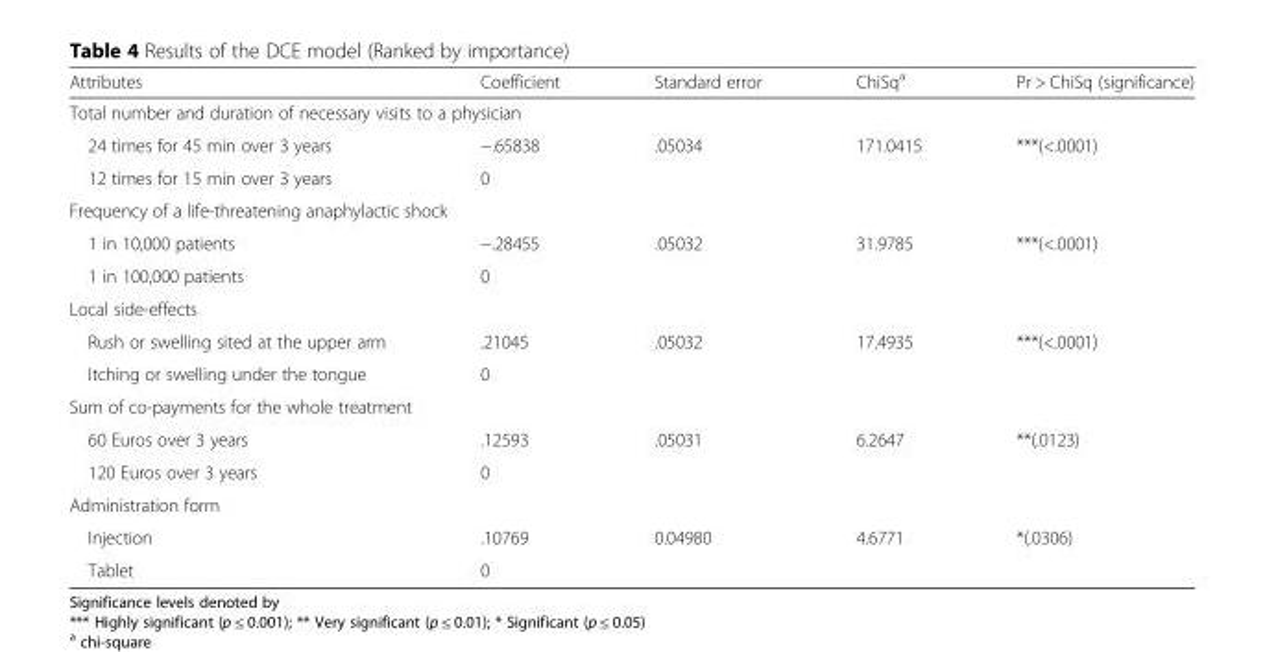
<table><thead><tr><td>Attributes</td><td>Coefficient</td><td>Standard error</td><td>ChiSq<sup>a</sup></td><td>Pr &gt; ChiSq (significance)</td></tr></thead><tbody><tr><td colspan="5">Total number and duration of necessary visits to a physician</td></tr><tr><td>24 times for 45 min over 3 years</td><td>−.65838</td><td>.05034</td><td>171.0415</td><td>***(&lt;.0001)</td></tr><tr><td>12 times for 15 min over 3 years</td><td>0</td><td></td><td></td><td></td></tr><tr><td colspan="5">Frequency of a life-threatening anaphylactic shock</td></tr><tr><td>1 in 10,000 patients</td><td>−.28455</td><td>.05032</td><td>31.9785</td><td>***(&lt;.0001)</td></tr><tr><td>1 in 100,000 patients</td><td>0</td><td></td><td></td><td></td></tr><tr><td colspan="5">Local side-effects</td></tr><tr><td>Rush or swelling sited at the upper arm</td><td>.21045</td><td>.05032</td><td>17.4935</td><td>***(&lt;.0001)</td></tr><tr><td>Itching or swelling under the tongue</td><td>0</td><td></td><td></td><td></td></tr><tr><td colspan="5">Sum of co-payments for the whole treatment</td></tr><tr><td>60 Euros over 3 years</td><td>.12593</td><td>.05031</td><td>6.2647</td><td>**(.0123)</td></tr><tr><td>120 Euros over 3 years</td><td>0</td><td></td><td></td><td></td></tr><tr><td colspan="5">Administration form</td></tr><tr><td>Injection</td><td>.10769</td><td>0.04980</td><td>4.6771</td><td>*(.0306)</td></tr><tr><td>Tablet</td><td>0</td><td></td><td></td><td></td></tr></tbody></table>